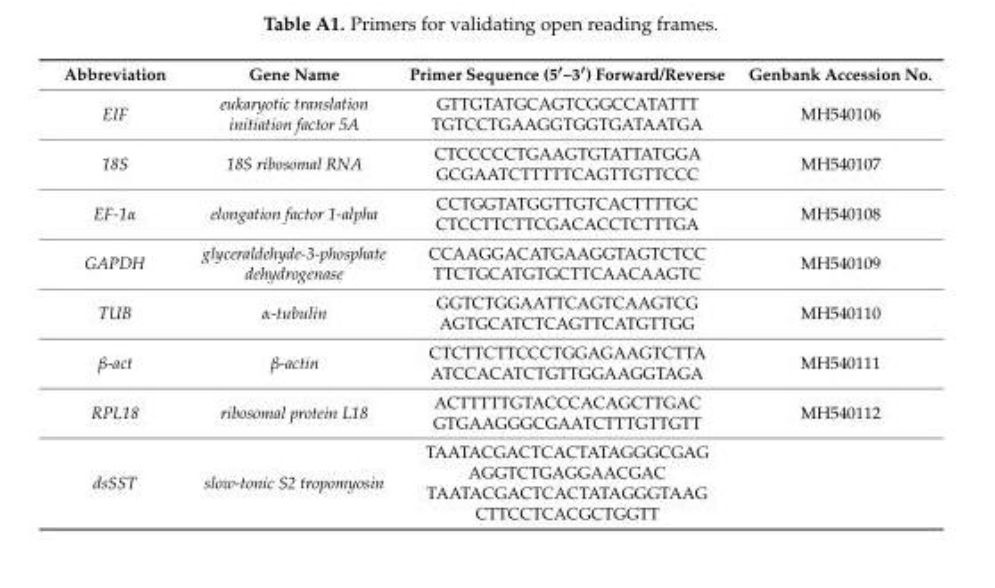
<table><thead><tr><td>Abbreviation</td><td>Gene Name</td><td>Primer Sequence (5′–3′) Forward/Reverse</td><td>Genbank Accession No.</td></tr></thead><tbody><tr><td>EIF</td><td>eukaryotic translation initiation factor 5A</td><td>GTTGTATGCAGTCGGCCATATTT TGTCCTGAAGGTGGTGATAATGA</td><td>MH540106</td></tr><tr><td>18S</td><td>18S ribosomal RNA</td><td>CTCCCCCTGAAGTGTATTATGGA GCGAATCTTTTTCAGTTGTTCCC</td><td>MH540107</td></tr><tr><td>EF-1α</td><td>elongation factor 1-alpha</td><td>CCTGGTATGGTTGTCACTTTTGC CTCCTTCTTCGACACCTCTTTGA</td><td>MH540108</td></tr><tr><td>GAPDH</td><td>glyceraldehyde-3-phosphate dehydrogenase</td><td>CCAAGGACATGAAGGTAGTCTCC TTCTGCATGTGCTTCAACAAGTC</td><td>MH540109</td></tr><tr><td>TUB</td><td>α-tubulin</td><td>GGTCTGGAATTCAGTCAAGTCG AGTGCATCTCAGTTCATGTTGG</td><td>MH540110</td></tr><tr><td>β-act</td><td>β-actin</td><td>CTCTTCTTCCCTGGAGAAGTCTTA ATCCACATCTGTTGGAAGGTAGA</td><td>MH540111</td></tr><tr><td>RPL18</td><td>ribosomal protein L18</td><td>ACTTTTTGTACCCACAGCTTGAC GTGAAGGGCGAATCTTTGTTGTT</td><td>MH540112</td></tr><tr><td>dsSST</td><td>slow-tonic S2 tropomyosin</td><td>TAATACGACTCACTATAGGGCGAG AGGTCTGAGGAACGAC TAATACGACTCACTATAGGGTAAG CTTCCTCACGCTGGTT</td><td></td></tr></tbody></table>